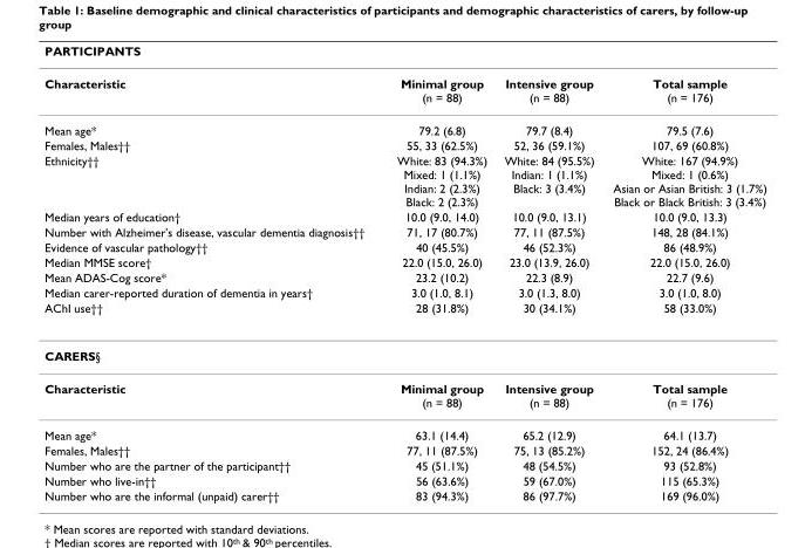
<table><thead><tr><td colspan="4">PARTICIPANTS</td></tr><tr><td>Characteristic</td><td>Minimal group (n = 88)</td><td>Intensive group (n = 88)</td><td>Total sample (n = 176)</td></tr></thead><tbody><tr><td>Mean age*</td><td>79.2 (6.8)</td><td>79.7 (8.4)</td><td>79.5 (7.6)</td></tr><tr><td>Females, Males††</td><td>55, 33 (62.5%)</td><td>52, 36 (59.1%)</td><td>107, 69 (60.8%)</td></tr><tr><td>Ethnicity††</td><td>White: 83 (94.3%) Mixed: 1 (1.1%) Indian: 2 (2.3%) Black: 2 (2.3%)</td><td>White: 84 (95.5%) Indian: 1 (1.1%) Black: 3 (3.4%)</td><td>White: 167 (94.9%) Mixed: 1 (0.6%) Asian or Asian British: 3 (1.7%) Black or Black British: 3 (3.4%)</td></tr><tr><td>Median years of education†</td><td>10.0 (9.0, 14.0)</td><td>10.0 (9.0, 13.1)</td><td>10.0 (9.0, 13.3)</td></tr><tr><td>Number with Alzheimer&#x27;s disease, vascular dementia diagnosis††</td><td>71, 17 (80.7%)</td><td>77, 11 (87.5%)</td><td>148, 28 (84.1%)</td></tr><tr><td>Evidence of vascular pathology††</td><td>40 (45.5%)</td><td>46 (52.3%)</td><td>86 (48.9%)</td></tr><tr><td>Median MMSE score†</td><td>22.0 (15.0, 26.0)</td><td>23.0 (13.9, 26.0)</td><td>22.0 (15.0, 26.0)</td></tr><tr><td>Mean ADAS-Cog score*</td><td>23.2 (10.2)</td><td>22.3 (8.9)</td><td>22.7 (9.6)</td></tr><tr><td>Median carer-reported duration of dementia in years†</td><td>3.0 (1.0, 8.1)</td><td>3.0 (1.3, 8.0)</td><td>3.0 (1.0, 8.0)</td></tr><tr><td>AChI use††</td><td>28 (31.8%)</td><td>30 (34.1%)</td><td>58 (33.0%)</td></tr><tr><td colspan="4">CARERS§</td></tr><tr><td>Characteristic</td><td>Minimal group (n = 88)</td><td>Intensive group (n = 88)</td><td>Total sample (n = 176)</td></tr><tr><td>Mean age*</td><td>63.1 (14.4)</td><td>65.2 (12.9)</td><td>64.1 (13.7)</td></tr><tr><td>Females, Males††</td><td>77, 11 (87.5%)</td><td>75, 13 (85.2%)</td><td>152, 24 (86.4%)</td></tr><tr><td>Number who are the partner of the participant††</td><td>45 (51.1%)</td><td>48 (54.5%)</td><td>93 (52.8%)</td></tr><tr><td>Number who live-in††</td><td>56 (63.6%)</td><td>59 (67.0%)</td><td>115 (65.3%)</td></tr><tr><td>Number who are the informal (unpaid) carer††</td><td>83 (94.3%)</td><td>86 (97.7%)</td><td>169 (96.0%)</td></tr></tbody></table>